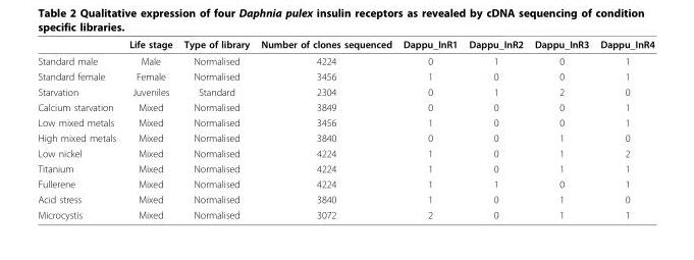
<table><thead><tr><td></td><td>Life stage</td><td>Type of library</td><td>Number of clones sequenced</td><td>Dappu_InR1</td><td>Dappu_InR2</td><td>Dappu_InR3</td><td>Dappu_InR4</td></tr></thead><tbody><tr><td>Standard male</td><td>Male</td><td>Normalised</td><td>4224</td><td>0</td><td>1</td><td>0</td><td>1</td></tr><tr><td>Standard female</td><td>Female</td><td>Normalised</td><td>3456</td><td>1</td><td>0</td><td>0</td><td>1</td></tr><tr><td>Starvation</td><td>Juveniles</td><td>Standard</td><td>2304</td><td>0</td><td>1</td><td>2</td><td>0</td></tr><tr><td>Calcium starvation</td><td>Mixed</td><td>Normalised</td><td>3849</td><td>0</td><td>0</td><td>0</td><td>1</td></tr><tr><td>Low mixed metals</td><td>Mixed</td><td>Normalised</td><td>3456</td><td>1</td><td>0</td><td>0</td><td>1</td></tr><tr><td>High mixed metals</td><td>Mixed</td><td>Normalised</td><td>3840</td><td>0</td><td>0</td><td>1</td><td>0</td></tr><tr><td>Low nickel</td><td>Mixed</td><td>Normalised</td><td>4224</td><td>1</td><td>0</td><td>1</td><td>2</td></tr><tr><td>Titanium</td><td>Mixed</td><td>Normalised</td><td>4224</td><td>1</td><td>0</td><td>1</td><td>1</td></tr><tr><td>Fullerene</td><td>Mixed</td><td>Normalised</td><td>4224</td><td>1</td><td>1</td><td>0</td><td>1</td></tr><tr><td>Acid stress</td><td>Mixed</td><td>Normalised</td><td>3840</td><td>1</td><td>0</td><td>1</td><td>0</td></tr><tr><td>Microcystis</td><td>Mixed</td><td>Normalised</td><td>3072</td><td>2</td><td>0</td><td>1</td><td>1</td></tr></tbody></table>